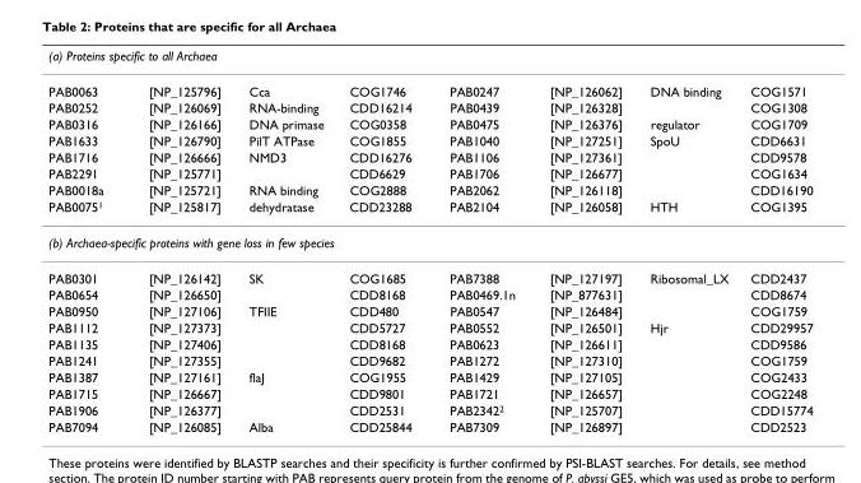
<table><thead><tr><td colspan="8">(a) Proteins specific to all Archaea</td></tr><tr><td>PAB0063</td><td>[NP_125796]</td><td>Cca</td><td>COG1746</td><td>PAB0247</td><td>[NP_126062]</td><td>DNA binding</td><td>COG1571</td></tr></thead><tbody><tr><td>PAB0252</td><td>[NP_126069]</td><td>RNA-binding</td><td>CDD16214</td><td>PAB0439</td><td>[NP_126328]</td><td></td><td>COG1308</td></tr><tr><td>PAB0316</td><td>[NP_126166]</td><td>DNA primase</td><td>COG0358</td><td>PAB0475</td><td>[NP_126376]</td><td>regulator</td><td>COG1709</td></tr><tr><td>PAB1633</td><td>[NP_126790]</td><td>PilT ATPase</td><td>COG1855</td><td>PAB1040</td><td>[NP_127251]</td><td>SpoU</td><td>CDD6631</td></tr><tr><td>PAB1716</td><td>[NP_126666]</td><td>NMD3</td><td>CDD16276</td><td>PAB1106</td><td>[NP_127361]</td><td></td><td>CDD9578</td></tr><tr><td>PAB2291</td><td>[NP_125771]</td><td></td><td>CDD6629</td><td>PAB1706</td><td>[NP_126677]</td><td></td><td>COG1634</td></tr><tr><td>PAB0018a</td><td>[NP_125721]</td><td>RNA binding</td><td>COG2888</td><td>PAB2062</td><td>[NP_126118]</td><td></td><td>CDD16190</td></tr><tr><td>PAB00751</td><td>[NP_125817]</td><td>dehydratase</td><td>CDD23288</td><td>PAB2104</td><td>[NP_126058]</td><td>HTH</td><td>COG1395</td></tr><tr><td colspan="8">(b) Archaea-specific proteins with gene loss in few species</td></tr><tr><td>PAB0301</td><td>[NP_126142]</td><td>SK</td><td>COG1685</td><td>PAB7388</td><td>[NP_127197]</td><td>Ribosomal_LX</td><td>CDD2437</td></tr><tr><td>PAB0654</td><td>[NP_126650]</td><td></td><td>CDD8168</td><td>PAB0469.1n</td><td>[NP_877631]</td><td></td><td>CDD8674</td></tr><tr><td>PAB0950</td><td>[NP_127106]</td><td>TFIIE</td><td>CDD480</td><td>PAB0547</td><td>[NP_126484]</td><td></td><td>COG1759</td></tr><tr><td>PAB1112</td><td>[NP_127373]</td><td></td><td>CDD5727</td><td>PAB0552</td><td>[NP_126501]</td><td>Hjr</td><td>CDD29957</td></tr><tr><td>PAB1135</td><td>[NP_127406]</td><td></td><td>CDD8168</td><td>PAB0623</td><td>[NP_126611]</td><td></td><td>CDD9586</td></tr><tr><td>PAB1241</td><td>[NP_127355]</td><td></td><td>CDD9682</td><td>PAB1272</td><td>[NP_127310]</td><td></td><td>COG1759</td></tr><tr><td>PAB1387</td><td>[NP_127161]</td><td>flaJ</td><td>COG1955</td><td>PAB1429</td><td>[NP_127105]</td><td></td><td>COG2433</td></tr><tr><td>PAB1715</td><td>[NP_126667]</td><td></td><td>CDD9801</td><td>PAB1721</td><td>[NP_126657]</td><td></td><td>COG2248</td></tr><tr><td>PAB1906</td><td>[NP_126377]</td><td></td><td>CDD2531</td><td>PAB23422</td><td>[NP_125707]</td><td></td><td>CDD15774</td></tr><tr><td>PAB7094</td><td>[NP_126085]</td><td>Alba</td><td>CDD25844</td><td>PAB7309</td><td>[NP_126897]</td><td></td><td>CDD2523</td></tr></tbody></table>